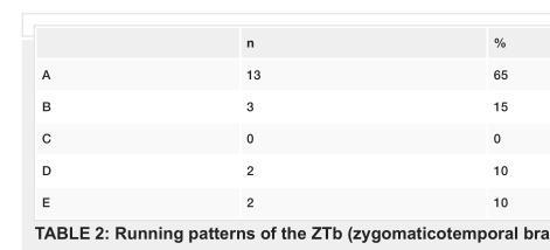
<table><thead><tr><td></td><td>n</td><td>%</td></tr></thead><tbody><tr><td>A</td><td>13</td><td>65</td></tr><tr><td>B</td><td>3</td><td>15</td></tr><tr><td>C</td><td>0</td><td>0</td></tr><tr><td>D</td><td>2</td><td>10</td></tr><tr><td>E</td><td>2</td><td>10</td></tr></tbody></table>